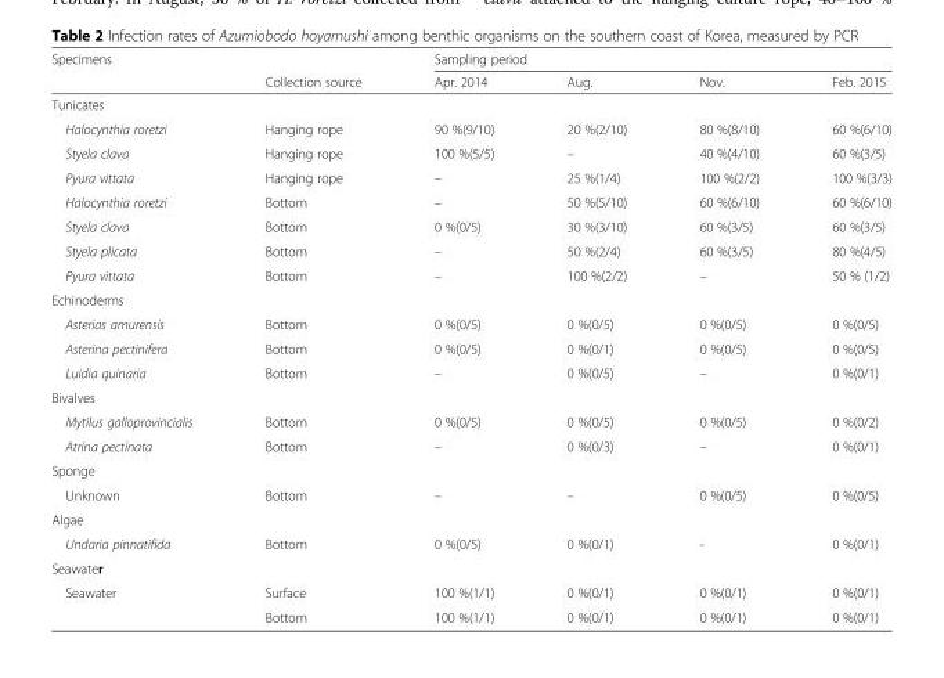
<table><thead><tr><td rowspan="2">Specimens</td><td rowspan="2">Collection source</td><td colspan="4">Sampling period</td></tr><tr><td>Apr. 2014</td><td>Aug.</td><td>Nov.</td><td>Feb. 2015</td></tr></thead><tbody><tr><td colspan="6">Tunicates</td></tr><tr><td>Halocynthia roretzi</td><td>Hanging rope</td><td>90 %(9/10)</td><td>20 %(2/10)</td><td>80 %(8/10)</td><td>60 %(6/10)</td></tr><tr><td>Styela clava</td><td>Hanging rope</td><td>100 %(5/5)</td><td>–</td><td>40 %(4/10)</td><td>60 %(3/5)</td></tr><tr><td>Pyura vittata</td><td>Hanging rope</td><td>–</td><td>25 %(1/4)</td><td>100 %(2/2)</td><td>100 %(3/3)</td></tr><tr><td>Halocynthia roretzi</td><td>Bottom</td><td>–</td><td>50 %(5/10)</td><td>60 %(6/10)</td><td>60 %(6/10)</td></tr><tr><td>Styela clava</td><td>Bottom</td><td>0 %(0/5)</td><td>30 %(3/10)</td><td>60 %(3/5)</td><td>60 %(3/5)</td></tr><tr><td>Styela plicata</td><td>Bottom</td><td>–</td><td>50 %(2/4)</td><td>60 %(3/5)</td><td>80 %(4/5)</td></tr><tr><td>Pyura vittata</td><td>Bottom</td><td>–</td><td>100 %(2/2)</td><td>–</td><td>50 % (1/2)</td></tr><tr><td colspan="6">Echinoderms</td></tr><tr><td>Asterias amurensis</td><td>Bottom</td><td>0 %(0/5)</td><td>0 %(0/5)</td><td>0 %(0/5)</td><td>0 %(0/5)</td></tr><tr><td>Asterina pectinifera</td><td>Bottom</td><td>0 %(0/5)</td><td>0 %(0/1)</td><td>0 %(0/5)</td><td>0 %(0/5)</td></tr><tr><td>Luidia quinaria</td><td>Bottom</td><td>–</td><td>0 %(0/5)</td><td>–</td><td>0 %(0/1)</td></tr><tr><td colspan="6">Bivalves</td></tr><tr><td>Mytilus galloprovincialis</td><td>Bottom</td><td>0 %(0/5)</td><td>0 %(0/5)</td><td>0 %(0/5)</td><td>0 %(0/2)</td></tr><tr><td>Atrina pectinata</td><td>Bottom</td><td>–</td><td>0 %(0/3)</td><td>–</td><td>0 %(0/1)</td></tr><tr><td colspan="6">Sponge</td></tr><tr><td>Unknown</td><td>Bottom</td><td>–</td><td>–</td><td>0 %(0/5)</td><td>0 %(0/5)</td></tr><tr><td colspan="6">Algae</td></tr><tr><td>Undaria pinnatifida</td><td>Bottom</td><td>0 %(0/5)</td><td>0 %(0/1)</td><td>-</td><td>0 %(0/1)</td></tr><tr><td colspan="6">Seawater</td></tr><tr><td rowspan="2">Seawater</td><td>Surface</td><td>100 %(1/1)</td><td>0 %(0/1)</td><td>0 %(0/1)</td><td>0 %(0/1)</td></tr><tr><td>Bottom</td><td>100 %(1/1)</td><td>0 %(0/1)</td><td>0 %(0/1)</td><td>0 %(0/1)</td></tr></tbody></table>